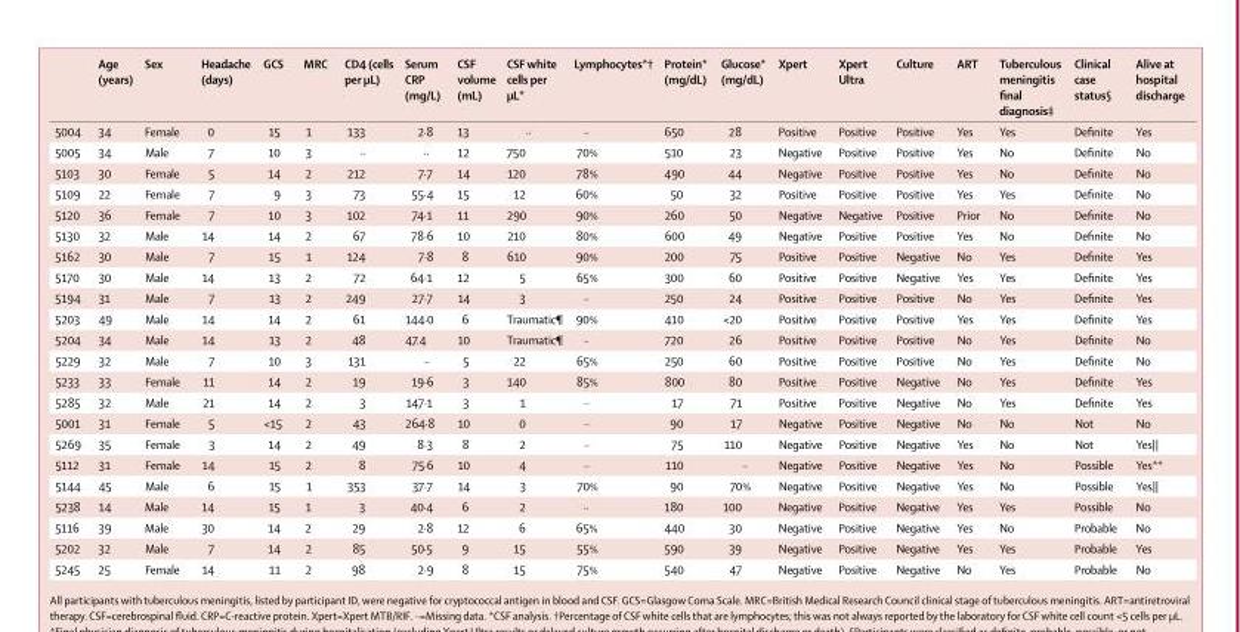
<table><thead><tr><td></td><td>Age (years)</td><td>Sex</td><td>Headache (days)</td><td>GCS</td><td>MRC</td><td>CD4 (cells per μL)</td><td>Serum CRP (mg/L)</td><td>CSF volume (mL)</td><td>CSF white cells per μL*</td><td>Lymphocytes*†</td><td>Protein* (mg/dL)</td><td>Glucose* (mg/dL)</td><td>Xpert</td><td>Xpert Ultra</td><td>Culture</td><td>ART</td><td>Tuberculous meningitis final diagnosis‡</td><td>Clinical case status§</td><td>Alive at hospital discharge</td></tr></thead><tbody><tr><td>5004</td><td>34</td><td>Female</td><td>0</td><td>15</td><td>1</td><td>133</td><td>2·8</td><td>13</td><td>··</td><td>··</td><td>650</td><td>28</td><td>Positive</td><td>Positive</td><td>Positive</td><td>Yes</td><td>Yes</td><td>Definite</td><td>Yes</td></tr><tr><td>5005</td><td>34</td><td>Male</td><td>7</td><td>10</td><td>3</td><td>··</td><td>··</td><td>12</td><td>750</td><td>70%</td><td>510</td><td>23</td><td>Negative</td><td>Positive</td><td>Positive</td><td>Yes</td><td>No</td><td>Definite</td><td>No</td></tr><tr><td>5103</td><td>30</td><td>Female</td><td>5</td><td>14</td><td>2</td><td>212</td><td>7·7</td><td>14</td><td>120</td><td>78%</td><td>490</td><td>44</td><td>Negative</td><td>Positive</td><td>Positive</td><td>Yes</td><td>No</td><td>Definite</td><td>No</td></tr><tr><td>5109</td><td>22</td><td>Female</td><td>7</td><td>9</td><td>3</td><td>73</td><td>55·4</td><td>15</td><td>12</td><td>60%</td><td>50</td><td>32</td><td>Positive</td><td>Positive</td><td>Positive</td><td>Yes</td><td>Yes</td><td>Definite</td><td>No</td></tr><tr><td>5120</td><td>36</td><td>Female</td><td>7</td><td>10</td><td>3</td><td>102</td><td>74·1</td><td>11</td><td>290</td><td>90%</td><td>260</td><td>50</td><td>Negative</td><td>Negative</td><td>Positive</td><td>Prior</td><td>No</td><td>Definite</td><td>No</td></tr><tr><td>5130</td><td>32</td><td>Male</td><td>14</td><td>14</td><td>2</td><td>67</td><td>78·6</td><td>10</td><td>210</td><td>80%</td><td>600</td><td>49</td><td>Negative</td><td>Positive</td><td>Positive</td><td>Yes</td><td>No</td><td>Definite</td><td>No</td></tr><tr><td>5162</td><td>30</td><td>Male</td><td>7</td><td>15</td><td>1</td><td>124</td><td>7·8</td><td>8</td><td>610</td><td>90%</td><td>200</td><td>75</td><td>Positive</td><td>Positive</td><td>Negative</td><td>No</td><td>Yes</td><td>Definite</td><td>Yes</td></tr><tr><td>5170</td><td>30</td><td>Male</td><td>14</td><td>13</td><td>2</td><td>72</td><td>64·1</td><td>12</td><td>5</td><td>65%</td><td>300</td><td>60</td><td>Positive</td><td>Positive</td><td>Negative</td><td>Yes</td><td>Yes</td><td>Definite</td><td>Yes</td></tr><tr><td>5194</td><td>31</td><td>Male</td><td>7</td><td>13</td><td>2</td><td>249</td><td>27·7</td><td>14</td><td>3</td><td>··</td><td>250</td><td>24</td><td>Positive</td><td>Positive</td><td>Positive</td><td>No</td><td>Yes</td><td>Definite</td><td>Yes</td></tr><tr><td>5203</td><td>49</td><td>Male</td><td>14</td><td>14</td><td>2</td><td>61</td><td>144·0</td><td>6</td><td>Traumatic¶</td><td>90%</td><td>410</td><td>&lt;20</td><td>Positive</td><td>Positive</td><td>Positive</td><td>Yes</td><td>Yes</td><td>Definite</td><td>Yes</td></tr><tr><td>5204</td><td>34</td><td>Male</td><td>14</td><td>13</td><td>2</td><td>48</td><td>47.4</td><td>10</td><td>Traumatic¶</td><td>··</td><td>720</td><td>26</td><td>Positive</td><td>Positive</td><td>Positive</td><td>No</td><td>Yes</td><td>Definite</td><td>No</td></tr><tr><td>5229</td><td>32</td><td>Male</td><td>7</td><td>10</td><td>3</td><td>131</td><td>··</td><td>5</td><td>22</td><td>65%</td><td>250</td><td>60</td><td>Positive</td><td>Positive</td><td>Positive</td><td>No</td><td>Yes</td><td>Definite</td><td>No</td></tr><tr><td>5233</td><td>33</td><td>Female</td><td>11</td><td>14</td><td>2</td><td>19</td><td>19·6</td><td>3</td><td>140</td><td>85%</td><td>800</td><td>80</td><td>Positive</td><td>Positive</td><td>Negative</td><td>No</td><td>Yes</td><td>Definite</td><td>Yes</td></tr><tr><td>5285</td><td>32</td><td>Male</td><td>21</td><td>14</td><td>2</td><td>3</td><td>147·1</td><td>3</td><td>1</td><td>··</td><td>17</td><td>71</td><td>Positive</td><td>Positive</td><td>Negative</td><td>No</td><td>Yes</td><td>Definite</td><td>Yes</td></tr><tr><td>5001</td><td>31</td><td>Female</td><td>5</td><td>&lt;15</td><td>2</td><td>43</td><td>264·8</td><td>10</td><td>0</td><td>··</td><td>90</td><td>17</td><td>Negative</td><td>Positive</td><td>Negative</td><td>No</td><td>No</td><td>Not</td><td>No</td></tr><tr><td>5269</td><td>35</td><td>Female</td><td>3</td><td>14</td><td>2</td><td>49</td><td>8·3</td><td>8</td><td>2</td><td>··</td><td>75</td><td>110</td><td>Negative</td><td>Positive</td><td>Negative</td><td>Yes</td><td>No</td><td>Not</td><td>Yes||</td></tr><tr><td>5112</td><td>31</td><td>Female</td><td>14</td><td>15</td><td>2</td><td>8</td><td>75·6</td><td>10</td><td>4</td><td>··</td><td>110</td><td>··</td><td>Negative</td><td>Positive</td><td>Negative</td><td>Yes</td><td>No</td><td>Possible</td><td>Yes**</td></tr><tr><td>5144</td><td>45</td><td>Male</td><td>6</td><td>15</td><td>1</td><td>353</td><td>37·7</td><td>14</td><td>3</td><td>70%</td><td>90</td><td>70%</td><td>Negative</td><td>Positive</td><td>Negative</td><td>Yes</td><td>No</td><td>Possible</td><td>Yes ||</td></tr><tr><td>5238</td><td>14</td><td>Male</td><td>14</td><td>15</td><td>1</td><td>3</td><td>40·4</td><td>6</td><td>2</td><td>··</td><td>180</td><td>100</td><td>Negative</td><td>Positive</td><td>Negative</td><td>Yes</td><td>Yes</td><td>Possible</td><td>No</td></tr><tr><td>5116</td><td>39</td><td>Male</td><td>30</td><td>14</td><td>2</td><td>29</td><td>2·8</td><td>12</td><td>6</td><td>65%</td><td>440</td><td>30</td><td>Negative</td><td>Positive</td><td>Negative</td><td>Yes</td><td>No</td><td>Probable</td><td>No</td></tr><tr><td>5202</td><td>32</td><td>Male</td><td>7</td><td>14</td><td>2</td><td>85</td><td>50·5</td><td>9</td><td>15</td><td>55%</td><td>590</td><td>39</td><td>Negative</td><td>Positive</td><td>Negative</td><td>Yes</td><td>Yes</td><td>Probable</td><td>Yes</td></tr><tr><td>5245</td><td>25</td><td>Female</td><td>14</td><td>11</td><td>2</td><td>98</td><td>2·9</td><td>8</td><td>15</td><td>75%</td><td>540</td><td>47</td><td>Negative</td><td>Positive</td><td>Negative</td><td>No</td><td>Yes</td><td>Probable</td><td>No</td></tr></tbody></table>